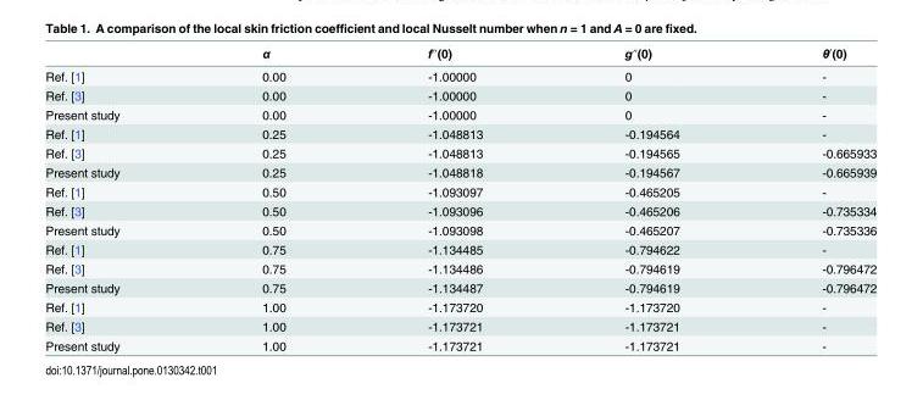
<table><thead><tr><td></td><td>α</td><td>f″(0)</td><td>g″(0)</td><td>θ′(0)</td></tr></thead><tbody><tr><td>Ref. [1]</td><td>0.00</td><td>-1.00000</td><td>0</td><td>-</td></tr><tr><td>Ref. [3]</td><td>0.00</td><td>-1.00000</td><td>0</td><td>-</td></tr><tr><td>Present study</td><td>0.00</td><td>-1.00000</td><td>0</td><td>-</td></tr><tr><td>Ref. [1]</td><td>0.25</td><td>-1.048813</td><td>-0.194564</td><td>-</td></tr><tr><td>Ref. [3]</td><td>0.25</td><td>-1.048813</td><td>-0.194565</td><td>-0.665933</td></tr><tr><td>Present study</td><td>0.25</td><td>-1.048818</td><td>-0.194567</td><td>-0.665939</td></tr><tr><td>Ref. [1]</td><td>0.50</td><td>-1.093097</td><td>-0.465205</td><td>-</td></tr><tr><td>Ref. [3]</td><td>0.50</td><td>-1.093096</td><td>-0.465206</td><td>-0.735334</td></tr><tr><td>Present study</td><td>0.50</td><td>-1.093098</td><td>-0.465207</td><td>-0.735336</td></tr><tr><td>Ref. [1]</td><td>0.75</td><td>-1.134485</td><td>-0.794622</td><td>-</td></tr><tr><td>Ref. [3]</td><td>0.75</td><td>-1.134486</td><td>-0.794619</td><td>-0.796472</td></tr><tr><td>Present study</td><td>0.75</td><td>-1.134487</td><td>-0.794619</td><td>-0.796472</td></tr><tr><td>Ref. [1]</td><td>1.00</td><td>-1.173720</td><td>-1.173720</td><td>-</td></tr><tr><td>Ref. [3]</td><td>1.00</td><td>-1.173721</td><td>-1.173721</td><td>-</td></tr><tr><td>Present study</td><td>1.00</td><td>-1.173721</td><td>-1.173721</td><td>-</td></tr></tbody></table>